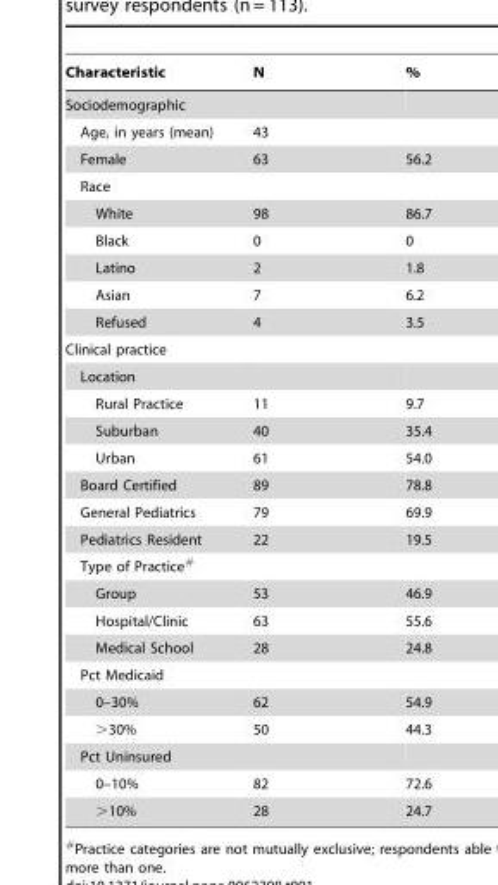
<table><thead><tr><td>Characteristic</td><td>N</td><td>%</td></tr></thead><tbody><tr><td colspan="3">Sociodemographic</td></tr><tr><td>Age, in years (mean)</td><td>43</td><td></td></tr><tr><td>Female</td><td>63</td><td>56.2</td></tr><tr><td colspan="3">Race</td></tr><tr><td>White</td><td>98</td><td>86.7</td></tr><tr><td>Black</td><td>0</td><td>0</td></tr><tr><td>Latino</td><td>2</td><td>1.8</td></tr><tr><td>Asian</td><td>7</td><td>6.2</td></tr><tr><td>Refused</td><td>4</td><td>3.5</td></tr><tr><td colspan="3">Clinical practice</td></tr><tr><td colspan="3">Location</td></tr><tr><td>Rural Practice</td><td>11</td><td>9.7</td></tr><tr><td>Suburban</td><td>40</td><td>35.4</td></tr><tr><td>Urban</td><td>61</td><td>54.0</td></tr><tr><td>Board Certified</td><td>89</td><td>78.8</td></tr><tr><td>General Pediatrics</td><td>79</td><td>69.9</td></tr><tr><td>Pediatrics Resident</td><td>22</td><td>19.5</td></tr><tr><td colspan="3">Type of Practice#</td></tr><tr><td>Group</td><td>53</td><td>46.9</td></tr><tr><td>Hospital/Clinic</td><td>63</td><td>55.6</td></tr><tr><td>Medical School</td><td>28</td><td>24.8</td></tr><tr><td colspan="3">Pct Medicaid</td></tr><tr><td>0–30%</td><td>62</td><td>54.9</td></tr><tr><td>&gt;30%</td><td>50</td><td>44.3</td></tr><tr><td colspan="3">Pct Uninsured</td></tr><tr><td>0–10%</td><td>82</td><td>72.6</td></tr><tr><td>&gt;10%</td><td>28</td><td>24.7</td></tr></tbody></table>